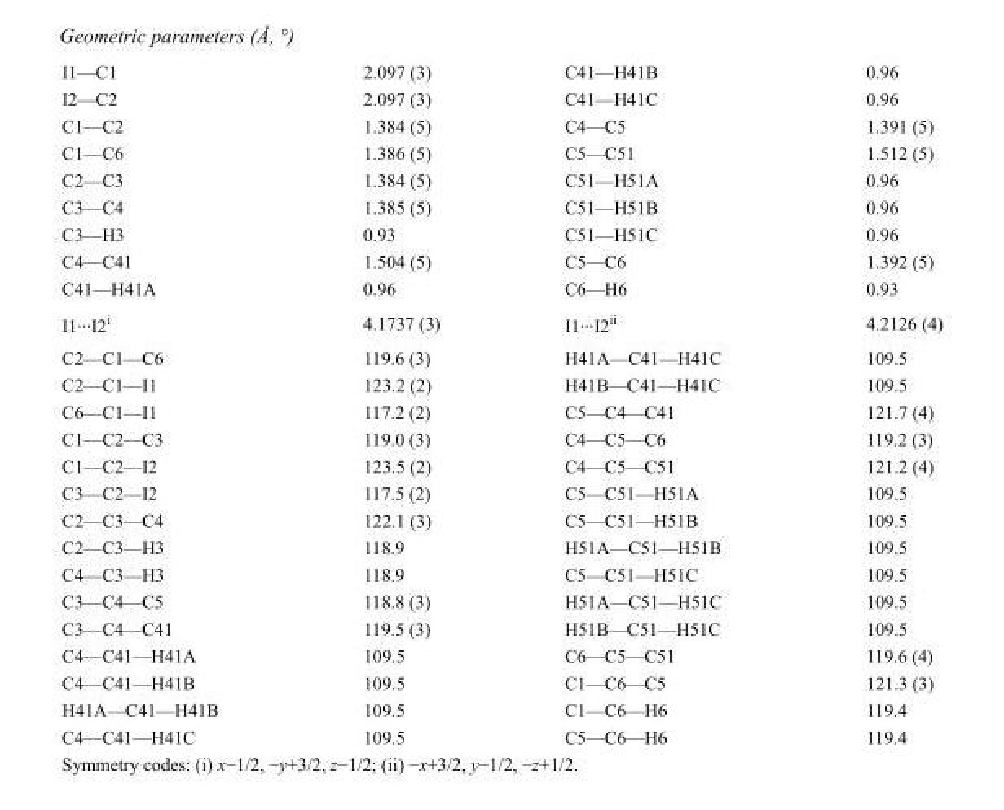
<table><tbody><tr><td>I1—C1</td><td>2.097 (3)</td><td>C41—H41B</td><td>0.96</td></tr><tr><td>I2—C2</td><td>2.097 (3)</td><td>C41—H41C</td><td>0.96</td></tr><tr><td>C1—C2</td><td>1.384 (5)</td><td>C4—C5</td><td>1.391 (5)</td></tr><tr><td>C1—C6</td><td>1.386 (5)</td><td>C5—C51</td><td>1.512 (5)</td></tr><tr><td>C2—C3</td><td>1.384 (5)</td><td>C51—H51A</td><td>0.96</td></tr><tr><td>C3—C4</td><td>1.385 (5)</td><td>C51—H51B</td><td>0.96</td></tr><tr><td>C3—H3</td><td>0.93</td><td>C51—H51C</td><td>0.96</td></tr><tr><td>C4—C41</td><td>1.504 (5)</td><td>C5—C6</td><td>1.392 (5)</td></tr><tr><td>C41—H41A</td><td>0.96</td><td>C6—H6</td><td>0.93</td></tr><tr><td>I1···I2<sup>i</sup></td><td>4.1737 (3)</td><td>I1···I2<sup>ii</sup></td><td>4.2126 (4)</td></tr><tr><td>C2—C1—C6</td><td>119.6 (3)</td><td>H41A—C41—H41C</td><td>109.5</td></tr><tr><td>C2—C1—I1</td><td>123.2 (2)</td><td>H41B—C41—H41C</td><td>109.5</td></tr><tr><td>C6—C1—I1</td><td>117.2 (2)</td><td>C5—C4—C41</td><td>121.7 (4)</td></tr><tr><td>C1—C2—C3</td><td>119.0 (3)</td><td>C4—C5—C6</td><td>119.2 (3)</td></tr><tr><td>C1—C2—I2</td><td>123.5 (2)</td><td>C4—C5—C51</td><td>121.2 (4)</td></tr><tr><td>C3—C2—I2</td><td>117.5 (2)</td><td>C5—C51—H51A</td><td>109.5</td></tr><tr><td>C2—C3—C4</td><td>122.1 (3)</td><td>C5—C51—H51B</td><td>109.5</td></tr><tr><td>C2—C3—H3</td><td>118.9</td><td>H51A—C51—H51B</td><td>109.5</td></tr><tr><td>C4—C3—H3</td><td>118.9</td><td>C5—C51—H51C</td><td>109.5</td></tr><tr><td>C3—C4—C5</td><td>118.8 (3)</td><td>H51A—C51—H51C</td><td>109.5</td></tr><tr><td>C3—C4—C41</td><td>119.5 (3)</td><td>H51B—C51—H51C</td><td>109.5</td></tr><tr><td>C4—C41—H41A</td><td>109.5</td><td>C6—C5—C51</td><td>119.6 (4)</td></tr><tr><td>C4—C41—H41B</td><td>109.5</td><td>C1—C6—C5</td><td>121.3 (3)</td></tr><tr><td>H41A—C41—H41B</td><td>109.5</td><td>C1—C6—H6</td><td>119.4</td></tr><tr><td>C4—C41—H41C</td><td>109.5</td><td>C5—C6—H6</td><td>119.4</td></tr></tbody></table>